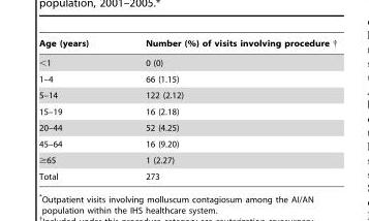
<table><thead><tr><td>Age (years)</td><td>Number (%) of visits involving procedure</td></tr></thead><tbody><tr><td>&lt;1</td><td>0 (0)</td></tr><tr><td>1–4</td><td>66 (1.15)</td></tr><tr><td>5–14</td><td>122 (2.12)</td></tr><tr><td>15–19</td><td>16 (2.18)</td></tr><tr><td>20–44</td><td>52 (4.25)</td></tr><tr><td>45–64</td><td>16 (9.20)</td></tr><tr><td>≥65</td><td>1 (2.27)</td></tr><tr><td>Total</td><td>273</td></tr></tbody></table>